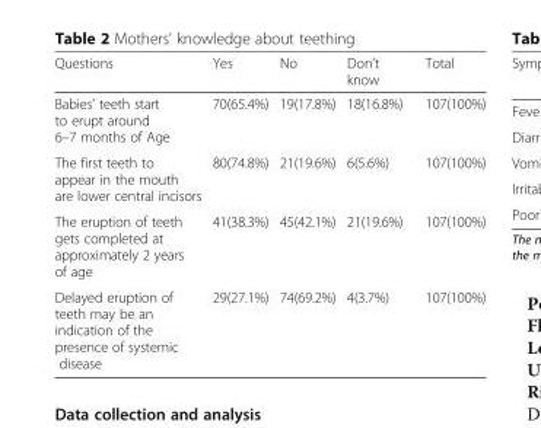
<table><thead><tr><td>Questions</td><td>Yes</td><td>No</td><td>Don’t know</td><td>Total</td></tr></thead><tbody><tr><td>Babies’ teeth start to erupt around 6–7 months of Age</td><td>70(65.4%)</td><td>19(17.8%)</td><td>18(16.8%)</td><td>107(100%)</td></tr><tr><td>The first teeth to appear in the mouth are lower central incisors</td><td>80(74.8%)</td><td>21(19.6%)</td><td>6(5.6%)</td><td>107(100%)</td></tr><tr><td>The eruption of teeth gets completed at approximately 2 years of age</td><td>41(38.3%)</td><td>45(42.1%)</td><td>21(19.6%)</td><td>107(100%)</td></tr><tr><td>Delayed eruption of teeth may be an indication of the presence of systemic disease</td><td>29(27.1%)</td><td>74(69.2%)</td><td>4(3.7%)</td><td>107(100%)</td></tr></tbody></table>